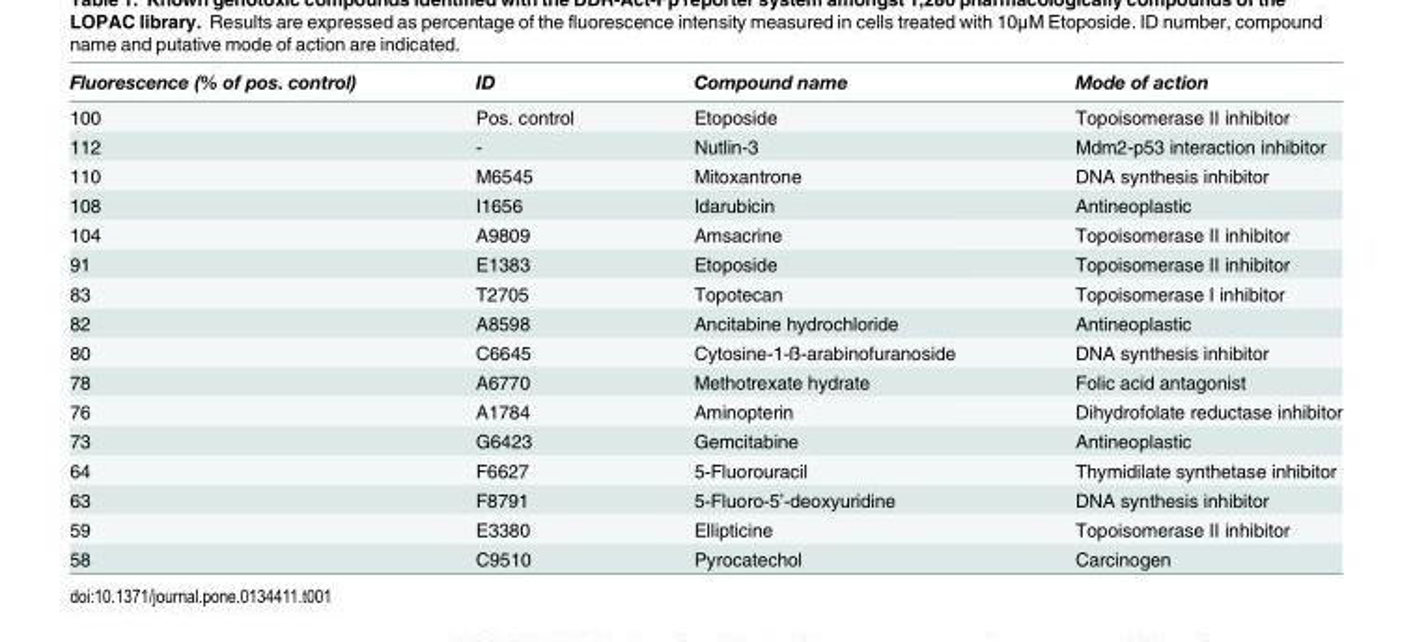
<table><thead><tr><td>Fluorescence (% of pos. control)</td><td>ID</td><td>Compound name</td><td>Mode of action</td></tr></thead><tbody><tr><td>100</td><td>Pos. control</td><td>Etoposide</td><td>Topoisomerase II inhibitor</td></tr><tr><td>112</td><td>-</td><td>Nutlin-3</td><td>Mdm2-p53 interaction inhibitor</td></tr><tr><td>110</td><td>M6545</td><td>Mitoxantrone</td><td>DNA synthesis inhibitor</td></tr><tr><td>108</td><td>I1656</td><td>Idarubicin</td><td>Antineoplastic</td></tr><tr><td>104</td><td>A9809</td><td>Amsacrine</td><td>Topoisomerase II inhibitor</td></tr><tr><td>91</td><td>E1383</td><td>Etoposide</td><td>Topoisomerase II inhibitor</td></tr><tr><td>83</td><td>T2705</td><td>Topotecan</td><td>Topoisomerase I inhibitor</td></tr><tr><td>82</td><td>A8598</td><td>Ancitabine hydrochloride</td><td>Antineoplastic</td></tr><tr><td>80</td><td>C6645</td><td>Cytosine-1-ß-arabinofuranoside</td><td>DNA synthesis inhibitor</td></tr><tr><td>78</td><td>A6770</td><td>Methotrexate hydrate</td><td>Folic acid antagonist</td></tr><tr><td>76</td><td>A1784</td><td>Aminopterin</td><td>Dihydrofolate reductase inhibitor</td></tr><tr><td>73</td><td>G6423</td><td>Gemcitabine</td><td>Antineoplastic</td></tr><tr><td>64</td><td>F6627</td><td>5-Fluorouracil</td><td>Thymidilate synthetase inhibitor</td></tr><tr><td>63</td><td>F8791</td><td>5-Fluoro-5’-deoxyuridine</td><td>DNA synthesis inhibitor</td></tr><tr><td>59</td><td>E3380</td><td>Ellipticine</td><td>Topoisomerase II inhibitor</td></tr><tr><td>58</td><td>C9510</td><td>Pyrocatechol</td><td>Carcinogen</td></tr></tbody></table>